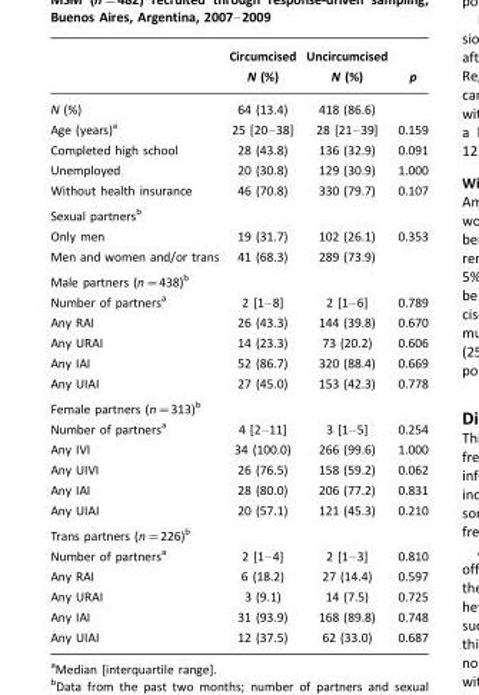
<table><thead><tr><td></td><td>Circumcised N (%)</td><td>Uncircumcised N (%)</td><td>p</td></tr></thead><tbody><tr><td>N (%)</td><td>64 (13.4)</td><td>418 (86.6)</td><td></td></tr><tr><td>Age (years)<sup>a</sup></td><td>25 [20–38]</td><td>28 [21–39]</td><td>0.159</td></tr><tr><td>Completed high school</td><td>28 (43.8)</td><td>136 (32.9)</td><td>0.091</td></tr><tr><td>Unemployed</td><td>20 (30.8)</td><td>129 (30.9)</td><td>1.000</td></tr><tr><td>Without health insurance</td><td>46 (70.8)</td><td>330 (79.7)</td><td>0.107</td></tr><tr><td colspan="4">Sexual partners<sup>b</sup></td></tr><tr><td>Only men</td><td>19 (31.7)</td><td>102 (26.1)</td><td>0.353</td></tr><tr><td>Men and women and/or trans</td><td>41 (68.3)</td><td>289 (73.9)</td><td></td></tr><tr><td colspan="4">Male partners (n=438)<sup>b</sup></td></tr><tr><td>Number of partners<sup>a</sup></td><td>2 [1–8]</td><td>2 [1–6]</td><td>0.789</td></tr><tr><td>Any RAI</td><td>26 (43.3)</td><td>144 (39.8)</td><td>0.670</td></tr><tr><td>Any URAI</td><td>14 (23.3)</td><td>73 (20.2)</td><td>0.606</td></tr><tr><td>Any IAI</td><td>52 (86.7)</td><td>320 (88.4)</td><td>0.669</td></tr><tr><td>Any UIAI</td><td>27 (45.0)</td><td>153 (42.3)</td><td>0.778</td></tr><tr><td colspan="4">Female partners (n=313)<sup>b</sup></td></tr><tr><td>Number of partners<sup>a</sup></td><td>4 [2–11]</td><td>3 [1–5]</td><td>0.254</td></tr><tr><td>Any IVI</td><td>34 (100.0)</td><td>266 (99.6)</td><td>1.000</td></tr><tr><td>Any UIVI</td><td>26 (76.5)</td><td>158 (59.2)</td><td>0.062</td></tr><tr><td>Any IAI</td><td>28 (80.0)</td><td>206 (77.2)</td><td>0.831</td></tr><tr><td>Any UIAI</td><td>20 (57.1)</td><td>121 (45.3)</td><td>0.210</td></tr><tr><td colspan="4">Trans partners (n=226)<sup>b</sup></td></tr><tr><td>Number of partners<sup>a</sup></td><td>2 [1–4]</td><td>2 [1–3]</td><td>0.810</td></tr><tr><td>Any RAI</td><td>6 (18.2)</td><td>27 (14.4)</td><td>0.597</td></tr><tr><td>Any URAI</td><td>3 (9.1)</td><td>14 (7.5)</td><td>0.725</td></tr><tr><td>Any IAI</td><td>31 (93.9)</td><td>168 (89.8)</td><td>0.748</td></tr><tr><td>Any UIAI</td><td>12 (37.5)</td><td>62 (33.0)</td><td>0.687</td></tr></tbody></table>